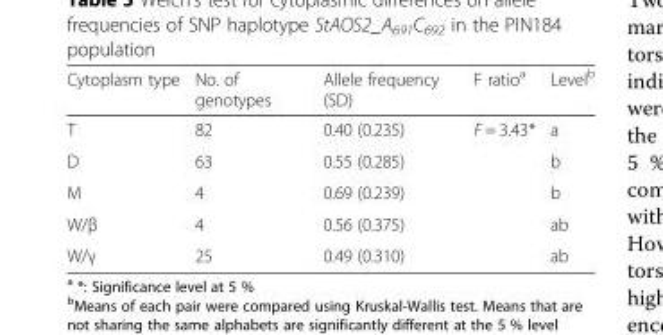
<table><thead><tr><td>Cytoplasm type</td><td>No. of genotypes</td><td>Allele frequency (SD)</td><td>F ratio<sup>a</sup></td><td>Level<sup>b</sup></td></tr></thead><tbody><tr><td>T</td><td>82</td><td>0.40 (0.235)</td><td>F = 3.43*</td><td>a</td></tr><tr><td>D</td><td>63</td><td>0.55 (0.285)</td><td></td><td>b</td></tr><tr><td>M</td><td>4</td><td>0.69 (0.239)</td><td></td><td>b</td></tr><tr><td>W/β</td><td>4</td><td>0.56 (0.375)</td><td></td><td>ab</td></tr><tr><td>W/γ</td><td>25</td><td>0.49 (0.310)</td><td></td><td>ab</td></tr></tbody></table>